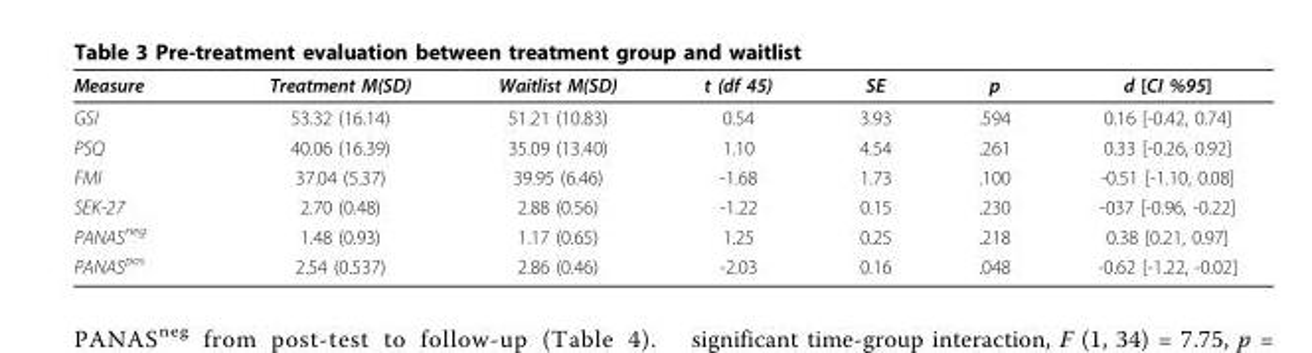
<table><thead><tr><td>Measure</td><td>Treatment M(SD)</td><td>Waitlist M(SD)</td><td>t (df 45)</td><td>SE</td><td>p</td><td>d [CI %95]</td></tr></thead><tbody><tr><td>GSI</td><td>53.32 (16.14)</td><td>51.21 (10.83)</td><td>0.54</td><td>3.93</td><td>.594</td><td>0.16 [-0.42, 0.74]</td></tr><tr><td>PSQ</td><td>40.06 (16.39)</td><td>35.09 (13.40)</td><td>1.10</td><td>4.54</td><td>.261</td><td>0.33 [-0.26, 0.92]</td></tr><tr><td>FMI</td><td>37.04 (5.37)</td><td>39.95 (6.46)</td><td>-1.68</td><td>1.73</td><td>.100</td><td>-0.51 [-1.10, 0.08]</td></tr><tr><td>SEK-27</td><td>2.70 (0.48)</td><td>2.88 (0.56)</td><td>-1.22</td><td>0.15</td><td>.230</td><td>-037 [-0.96, -0.22]</td></tr><tr><td>PANAS<sup>neg</sup></td><td>1.48 (0.93)</td><td>1.17 (0.65)</td><td>1.25</td><td>0.25</td><td>.218</td><td>0.38 [0.21, 0.97]</td></tr><tr><td>PANAS<sup>pos</sup></td><td>2.54 (0.537)</td><td>2.86 (0.46)</td><td>-2.03</td><td>0.16</td><td>.048</td><td>-0.62 [-1.22, -0.02]</td></tr></tbody></table>